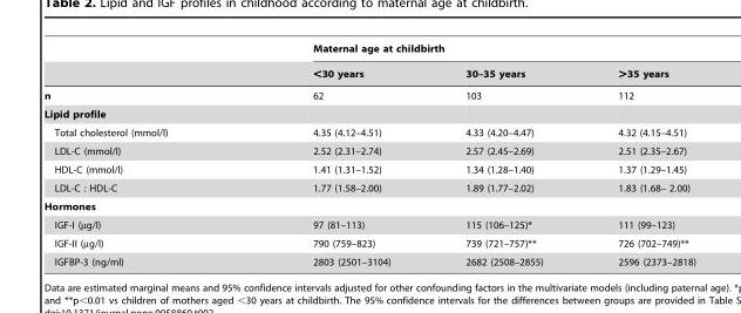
<table><thead><tr><td rowspan="2"></td><td colspan="3">Maternal age at childbirth</td></tr><tr><td>&lt;30 years</td><td>30–35 years</td><td>&gt;35 years</td></tr></thead><tbody><tr><td>n</td><td>62</td><td>103</td><td>112</td></tr><tr><td colspan="4">Lipid profile</td></tr><tr><td>Total cholesterol (mmol/l)</td><td>4.35 (4.12–4.51)</td><td>4.33 (4.20–4.47)</td><td>4.32 (4.15–4.51)</td></tr><tr><td>LDL-C (mmol/l)</td><td>2.52 (2.31–2.74)</td><td>2.57 (2.45–2.69)</td><td>2.51 (2.35–2.67)</td></tr><tr><td>HDL-C (mmol/l)</td><td>1.41 (1.31–1.52)</td><td>1.34 (1.28–1.40)</td><td>1.37 (1.29–1.45)</td></tr><tr><td>LDL-C : HDL-C</td><td>1.77 (1.58–2.00)</td><td>1.89 (1.77–2.02)</td><td>1.83 (1.68– 2.00)</td></tr><tr><td colspan="4">Hormones</td></tr><tr><td>IGF-I (µg/l)</td><td>97 (81–113)</td><td>115 (106–125)*</td><td>111 (99–123)</td></tr><tr><td>IGF-II (µg/l)</td><td>790 (759–823)</td><td>739 (721–757)**</td><td>726 (702–749)**</td></tr><tr><td>IGFBP-3 (ng/ml)</td><td>2803 (2501–3104)</td><td>2682 (2508–2855)</td><td>2596 (2373–2818)</td></tr></tbody></table>